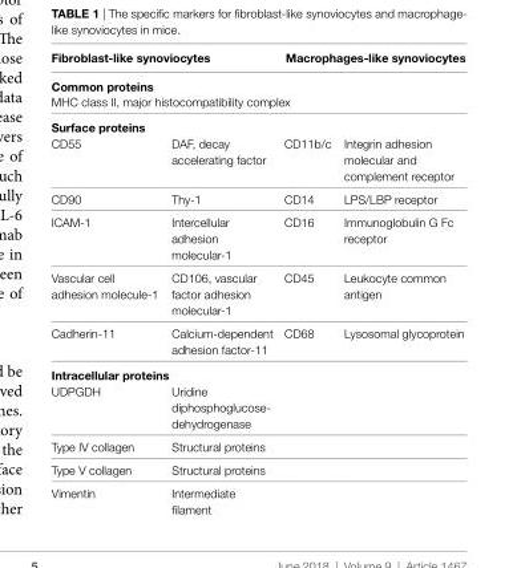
<table><thead><tr><td colspan="2">Fibroblast-like synoviocytes</td><td colspan="2">Macrophages-like synoviocytes</td></tr></thead><tbody><tr><td colspan="4">Common proteins</td></tr><tr><td colspan="4">MHC class II, major histocompatibility complex</td></tr><tr><td colspan="4">Surface proteins</td></tr><tr><td>CD55</td><td>DAF, decay accelerating factor</td><td>CD11b/c</td><td>Integrin adhesion molecular and complement receptor</td></tr><tr><td>CD90</td><td>Thy-1</td><td>CD14</td><td>LPS/LBP receptor</td></tr><tr><td>ICAM-1</td><td>Intercellular adhesion molecular-1</td><td>CD16</td><td>Immunoglobulin G Fc receptor</td></tr><tr><td>Vascular cell adhesion molecule-1</td><td>CD106, vascular factor adhesion molecular-1</td><td>CD45</td><td>Leukocyte common antigen</td></tr><tr><td>Cadherin-11</td><td>Calcium-dependent adhesion factor-11</td><td>CD68</td><td>Lysosomal glycoprotein</td></tr><tr><td colspan="4">intracellular proteins</td></tr><tr><td>UDPGDH</td><td>Uridine diphosphoglucose- dehydrogenase</td><td></td><td></td></tr><tr><td>Type IV collagen</td><td>Structural proteins</td><td></td><td></td></tr><tr><td>Type V collagen</td><td>Structural proteins</td><td></td><td></td></tr><tr><td>Vimentin</td><td>Intermediate filament</td><td></td><td></td></tr></tbody></table>